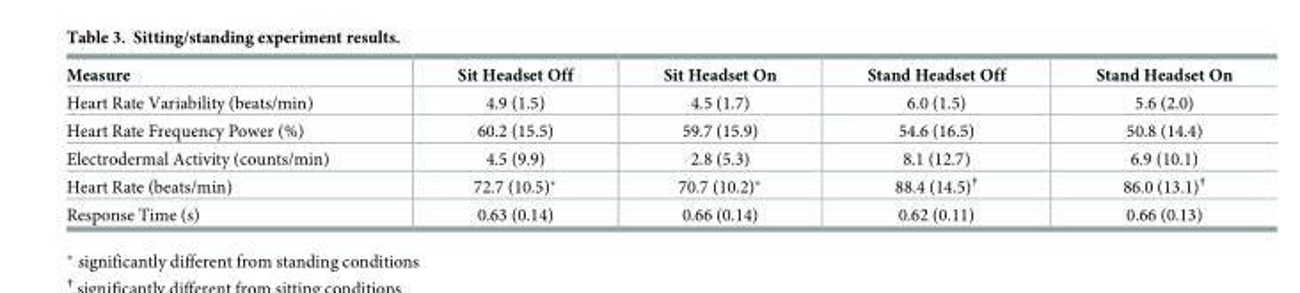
<table><thead><tr><td>Measure</td><td>Sit Headset Off</td><td>Sit Headset On</td><td>Stand Headset Off</td><td>Stand Headset On</td></tr></thead><tbody><tr><td>Heart Rate Variability (beats/min)</td><td>4.9 (1.5)</td><td>4.5 (1.7)</td><td>6.0 (1.5)</td><td>5.6 (2.0)</td></tr><tr><td>Heart Rate Frequency Power (%)</td><td>60.2 (15.5)</td><td>59.7 (15.9)</td><td>54.6 (16.5)</td><td>50.8 (14.4)</td></tr><tr><td>Electrodermal Activity (counts/min)</td><td>4.5 (9.9)</td><td>2.8 (5.3)</td><td>8.1 (12.7)</td><td>6.9 (10.1)</td></tr><tr><td>Heart Rate (beats/min)</td><td>72.7 (10.5)*</td><td>70.7 (10.2)*</td><td>88.4 (14.5)†</td><td>86.0 (13.1)†</td></tr><tr><td>Response Time (s)</td><td>0.63 (0.14)</td><td>0.66 (0.14)</td><td>0.62 (0.11)</td><td>0.66 (0.13)</td></tr></tbody></table>